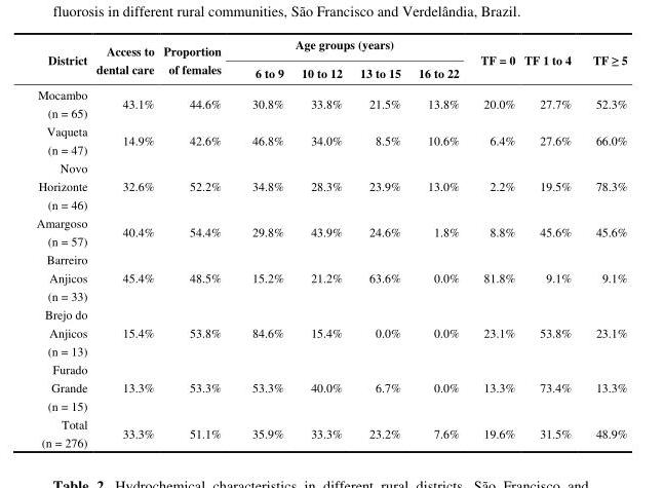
<table><thead><tr><td rowspan="2">District</td><td rowspan="2">Access to dental care</td><td rowspan="2">Proportion of females</td><td colspan="4">Age groups (years)</td><td rowspan="2">TF = 0</td><td rowspan="2">TF 1 to 4</td><td rowspan="2">TF ≥ 5</td></tr><tr><td>6 to 9</td><td>10 to 12</td><td>13 to 15</td><td>16 to 22</td></tr></thead><tbody><tr><td>Mocambo (n = 65)</td><td>43.1%</td><td>44.6%</td><td>30.8%</td><td>33.8%</td><td>21.5%</td><td>13.8%</td><td>20.0%</td><td>27.7%</td><td>52.3%</td></tr><tr><td>Vaqueta (n = 47)</td><td>14.9%</td><td>42.6%</td><td>46.8%</td><td>34.0%</td><td>8.5%</td><td>10.6%</td><td>6.4%</td><td>27.6%</td><td>66.0%</td></tr><tr><td>Novo Horizonte (n = 46)</td><td>32.6%</td><td>52.2%</td><td>34.8%</td><td>28.3%</td><td>23.9%</td><td>13.0%</td><td>2.2%</td><td>19.5%</td><td>78.3%</td></tr><tr><td>Amargoso (n = 57)</td><td>40.4%</td><td>54.4%</td><td>29.8%</td><td>43.9%</td><td>24.6%</td><td>1.8%</td><td>8.8%</td><td>45.6%</td><td>45.6%</td></tr><tr><td>Barreiro Anjicos (n = 33)</td><td>45.4%</td><td>48.5%</td><td>15.2%</td><td>21.2%</td><td>63.6%</td><td>0.0%</td><td>81.8%</td><td>9.1%</td><td>9.1%</td></tr><tr><td>Brejo do Anjicos (n = 13)</td><td>15.4%</td><td>53.8%</td><td>84.6%</td><td>15.4%</td><td>0.0%</td><td>0.0%</td><td>23.1%</td><td>53.8%</td><td>23.1%</td></tr><tr><td>Furado Grande (n = 15)</td><td>13.3%</td><td>53.3%</td><td>53.3%</td><td>40.0%</td><td>6.7%</td><td>0.0%</td><td>13.3%</td><td>73.4%</td><td>13.3%</td></tr><tr><td>Total (n = 276)</td><td>33.3%</td><td>51.1%</td><td>35.9%</td><td>33.3%</td><td>23.2%</td><td>7.6%</td><td>19.6%</td><td>31.5%</td><td>48.9%</td></tr></tbody></table>